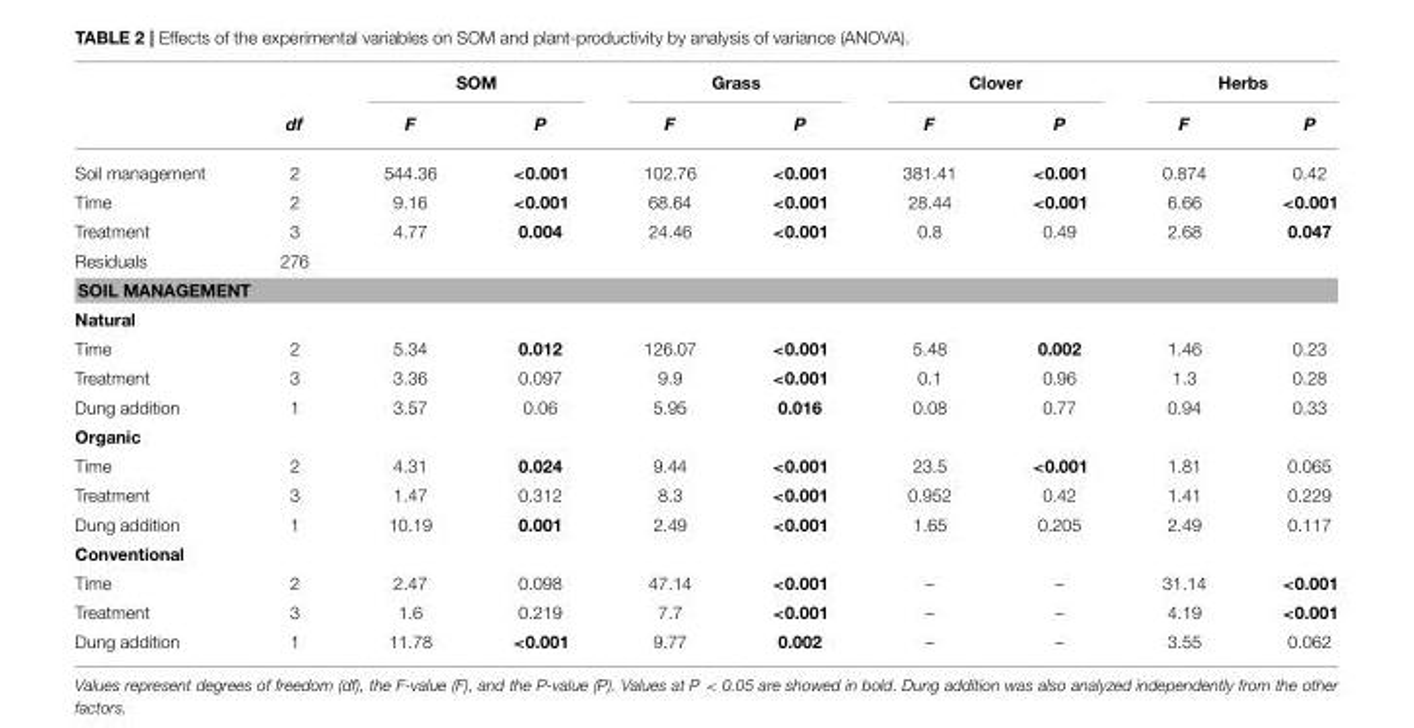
<table><thead><tr><td rowspan="2"></td><td rowspan="2">df</td><td colspan="2">SOM</td><td colspan="2">Grass</td><td colspan="2">Clover</td><td colspan="2">Herbs</td></tr><tr><td>F</td><td>P</td><td>F</td><td>P</td><td>F</td><td>P</td><td>F</td><td>P</td></tr></thead><tbody><tr><td>Soil management</td><td>2</td><td>544.36</td><td>&lt;0.001</td><td>102.76</td><td>&lt;0.001</td><td>381.41</td><td>&lt;0.001</td><td>0.874</td><td>0.42</td></tr><tr><td>Time</td><td>2</td><td>9.16</td><td>&lt;0.001</td><td>68.64</td><td>&lt;0.001</td><td>28.44</td><td>&lt;0.001</td><td>6.66</td><td>&lt;0.001</td></tr><tr><td>Treatment</td><td>3</td><td>4.77</td><td>0.004</td><td>24.46</td><td>&lt;0.001</td><td>0.8</td><td>0.49</td><td>2.68</td><td>0.047</td></tr><tr><td>Residuals</td><td>276</td><td></td><td></td><td></td><td></td><td></td><td></td><td></td><td></td></tr><tr><td colspan="10">SOIL MANAGEMENT</td></tr><tr><td colspan="10">Natural</td></tr><tr><td>Time</td><td>2</td><td>5.34</td><td>0.012</td><td>126.07</td><td>&lt;0.001</td><td>5.48</td><td>0.002</td><td>1.46</td><td>0.23</td></tr><tr><td>Treatment</td><td>3</td><td>3.36</td><td>0.097</td><td>9.9</td><td>&lt;0.001</td><td>0.1</td><td>0.96</td><td>1.3</td><td>0.28</td></tr><tr><td>Dung addition</td><td>1</td><td>3.57</td><td>0.06</td><td>5.95</td><td>0.016</td><td>0.08</td><td>0.77</td><td>0.94</td><td>0.33</td></tr><tr><td colspan="10">Organic</td></tr><tr><td>Time</td><td>2</td><td>4.31</td><td>0.024</td><td>9.44</td><td>&lt;0.001</td><td>23.5</td><td>&lt;0.001</td><td>1.81</td><td>0.065</td></tr><tr><td>Treatment</td><td>3</td><td>1.47</td><td>0.312</td><td>8.3</td><td>&lt;0.001</td><td>0.952</td><td>0.42</td><td>1.41</td><td>0.229</td></tr><tr><td>Dung addition</td><td>1</td><td>10.19</td><td>0.001</td><td>2.49</td><td>&lt;0.001</td><td>1.65</td><td>0.205</td><td>2.49</td><td>0.117</td></tr><tr><td colspan="10">Conventional</td></tr><tr><td>Time</td><td>2</td><td>2.47</td><td>0.098</td><td>47.14</td><td>&lt;0.001</td><td>–</td><td>–</td><td>31.14</td><td>&lt;0.001</td></tr><tr><td>Treatment</td><td>3</td><td>1.6</td><td>0.219</td><td>7.7</td><td>&lt;0.001</td><td>–</td><td>–</td><td>4.19</td><td>&lt;0.001</td></tr><tr><td>Dung addition</td><td>1</td><td>11.78</td><td>&lt;0.001</td><td>9.77</td><td>0.002</td><td>–</td><td>–</td><td>3.55</td><td>0.062</td></tr></tbody></table>